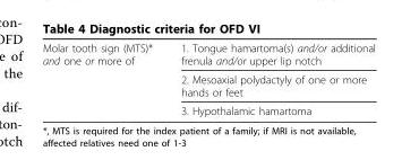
<table><tbody><tr><td rowspan="3">Molar tooth sign (MTS)* and one or more of</td><td>1. Tongue hamartoma(s) and/or additional frenula and/or upper lip notch</td></tr><tr><td>2. Mesoaxial polydactyly of one or more hands or feet</td></tr><tr><td>3. Hypothalamic hamartoma</td></tr></tbody></table>